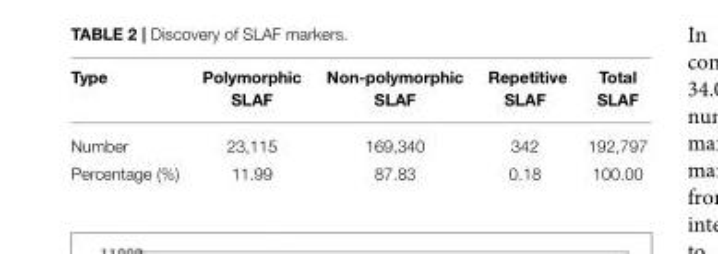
<table><thead><tr><td>Type</td><td>Polymorphic SLAF</td><td>Non-polymorphic SLAF</td><td>Repetitive SLAF</td><td>Total SLAF</td></tr></thead><tbody><tr><td>Number</td><td>23,115</td><td>169,340</td><td>342</td><td>192,797</td></tr><tr><td>Percentage (%)</td><td>11.99</td><td>87.83</td><td>0.18</td><td>100.00</td></tr></tbody></table>